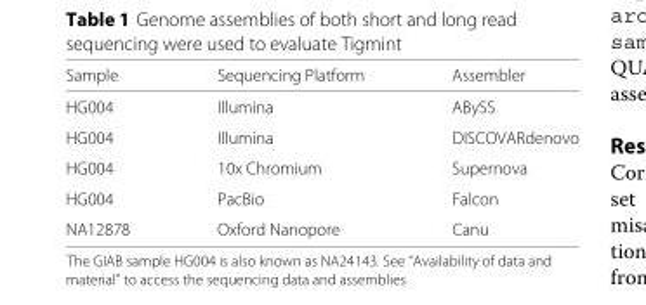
<table><thead><tr><td>Sample</td><td>Sequencing Platform</td><td>Assembler</td></tr></thead><tbody><tr><td>HG004</td><td>Illumina</td><td>ABySS</td></tr><tr><td>HG004</td><td>Illumina</td><td>DISCOVARdenovo</td></tr><tr><td>HG004</td><td>10x Chromium</td><td>Supernova</td></tr><tr><td>HG004</td><td>PacBio</td><td>Falcon</td></tr><tr><td>NA12878</td><td>Oxford Nanopore</td><td>Canu</td></tr></tbody></table>